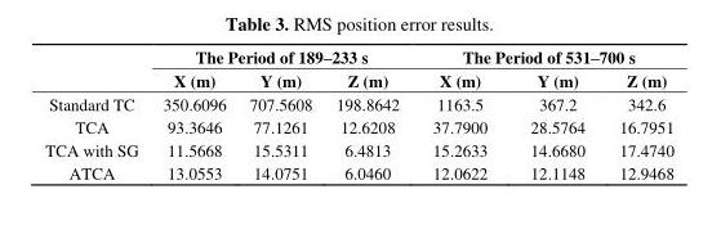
<table><thead><tr><td rowspan="2"></td><td colspan="3">The Period of 189–233 s</td><td colspan="3">The Period of 531–700 s</td></tr><tr><td>X (m)</td><td>Y (m)</td><td>Z (m)</td><td>X (m)</td><td>Y (m)</td><td>Z (m)</td></tr></thead><tbody><tr><td>Standard TC</td><td>350.6096</td><td>707.5608</td><td>198.8642</td><td>1163.5</td><td>367.2</td><td>342.6</td></tr><tr><td>TCA</td><td>93.3646</td><td>77.1261</td><td>12.6208</td><td>37.7900</td><td>28.5764</td><td>16.7951</td></tr><tr><td>TCA with SG</td><td>11.5668</td><td>15.5311</td><td>6.4813</td><td>15.2633</td><td>14.6680</td><td>17.4740</td></tr><tr><td>ATCA</td><td>13.0553</td><td>14.0751</td><td>6.0460</td><td>12.0622</td><td>12.1148</td><td>12.9468</td></tr></tbody></table>